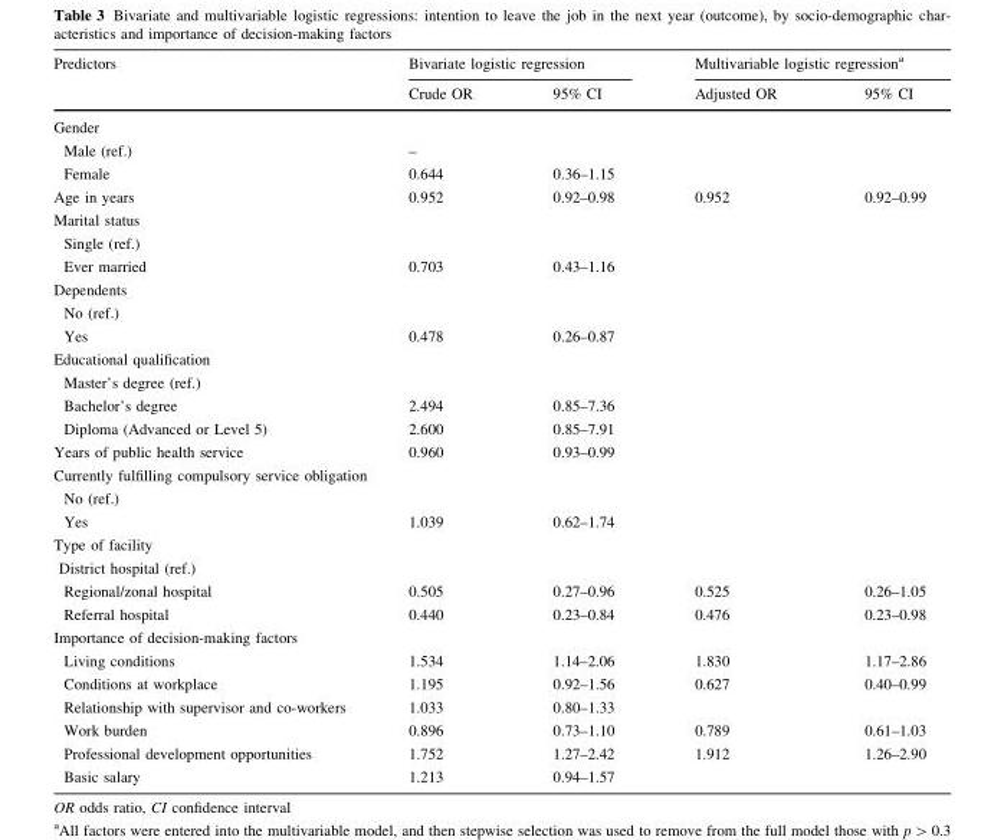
<table><thead><tr><td rowspan="2">Predictors</td><td colspan="2">Bivariate logistic regression</td><td colspan="2">Multivariable logistic regression<sup>a</sup></td></tr><tr><td>Crude OR</td><td>95% CI</td><td>Adjusted OR</td><td>95% CI</td></tr></thead><tbody><tr><td colspan="5">Gender</td></tr><tr><td>Male (ref.)</td><td>–</td><td></td><td></td><td></td></tr><tr><td>Female</td><td>0.644</td><td>0.36–1.15</td><td></td><td></td></tr><tr><td>Age in years</td><td>0.952</td><td>0.92–0.98</td><td>0.952</td><td>0.92–0.99</td></tr><tr><td colspan="5">Marital status</td></tr><tr><td colspan="5">Single (ref.)</td></tr><tr><td>Ever married</td><td>0.703</td><td>0.43–1.16</td><td></td><td></td></tr><tr><td colspan="5">Dependents</td></tr><tr><td colspan="5">No (ref.)</td></tr><tr><td>Yes</td><td>0.478</td><td>0.26–0.87</td><td></td><td></td></tr><tr><td colspan="5">Educational qualification</td></tr><tr><td colspan="5">Master’s degree (ref.)</td></tr><tr><td>Bachelor’s degree</td><td>2.494</td><td>0.85–7.36</td><td></td><td></td></tr><tr><td>Diploma (Advanced or Level 5)</td><td>2.600</td><td>0.85–7.91</td><td></td><td></td></tr><tr><td>Years of public health service</td><td>0.960</td><td>0.93–0.99</td><td></td><td></td></tr><tr><td colspan="5">Currently fulfilling compulsory service obligation</td></tr><tr><td colspan="5">No (ref.)</td></tr><tr><td>Yes</td><td>1.039</td><td>0.62–1.74</td><td></td><td></td></tr><tr><td colspan="5">Type of facility</td></tr><tr><td colspan="5">District hospital (ref.)</td></tr><tr><td>Regional/zonal hospital</td><td>0.505</td><td>0.27–0.96</td><td>0.525</td><td>0.26–1.05</td></tr><tr><td>Referral hospital</td><td>0.440</td><td>0.23–0.84</td><td>0.476</td><td>0.23–0.98</td></tr><tr><td colspan="5">Importance of decision-making factors</td></tr><tr><td>Living conditions</td><td>1.534</td><td>1.14–2.06</td><td>1.830</td><td>1.17–2.86</td></tr><tr><td>Conditions at workplace</td><td>1.195</td><td>0.92–1.56</td><td>0.627</td><td>0.40–0.99</td></tr><tr><td>Relationship with supervisor and co-workers</td><td>1.033</td><td>0.80–1.33</td><td></td><td></td></tr><tr><td>Work burden</td><td>0.896</td><td>0.73–1.10</td><td>0.789</td><td>0.61–1.03</td></tr><tr><td>Professional development opportunities</td><td>1.752</td><td>1.27–2.42</td><td>1.912</td><td>1.26–2.90</td></tr><tr><td>Basic salary</td><td>1.213</td><td>0.94–1.57</td><td></td><td></td></tr></tbody></table>